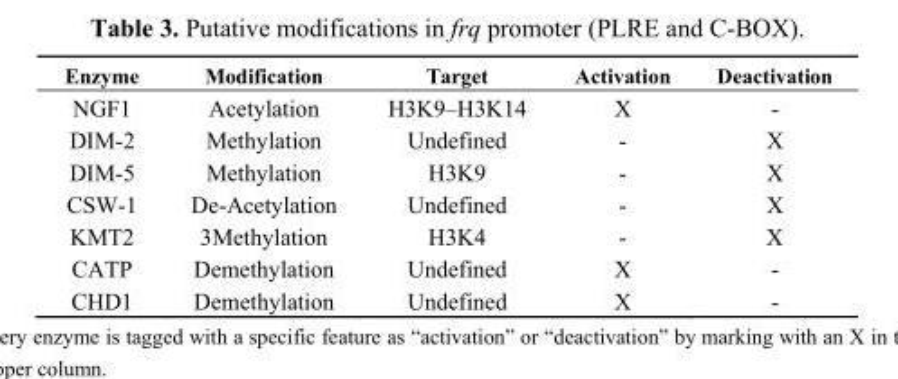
<table><thead><tr><td>Enzyme</td><td>Modification</td><td>Target</td><td>Activation</td><td>Deactivation</td></tr></thead><tbody><tr><td>NGF1</td><td>Acetylation</td><td>H3K9–H3K14</td><td>X</td><td>-</td></tr><tr><td>DIM-2</td><td>Methylation</td><td>Undefined</td><td>-</td><td>X</td></tr><tr><td>DIM-5</td><td>Methylation</td><td>H3K9</td><td>-</td><td>X</td></tr><tr><td>CSW-1</td><td>De-Acetylation</td><td>Undefined</td><td>-</td><td>X</td></tr><tr><td>KMT2</td><td>3Methylation</td><td>H3K4</td><td>-</td><td>X</td></tr><tr><td>CATP</td><td>Demethylation</td><td>Undefined</td><td>X</td><td>-</td></tr><tr><td>CHD1</td><td>Demethylation</td><td>Undefined</td><td>X</td><td>-</td></tr></tbody></table>